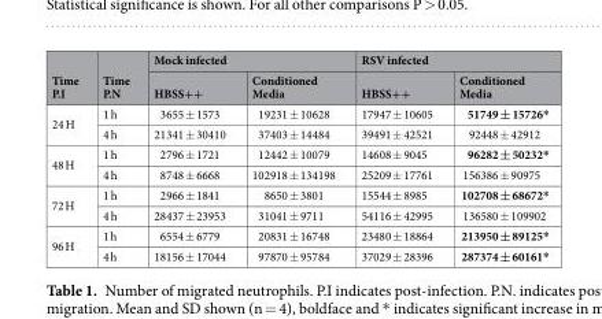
<table><thead><tr><td rowspan="2">Time P.I</td><td rowspan="2">Time P.N</td><td colspan="2">Mock infected</td><td colspan="2">RSV infected</td></tr><tr><td>HBSS++</td><td>Conditioned Media</td><td>HBSS++</td><td>Conditioned Media</td></tr></thead><tbody><tr><td rowspan="2">24 H</td><td>1 h</td><td>3655 ± 1573</td><td>19231 ± 10628</td><td>17947 ± 10605</td><td>51749 ± 15726*</td></tr><tr><td>4 h</td><td>21341 ± 30410</td><td>37403 ± 14484</td><td>39491 ± 42521</td><td>92448 ± 42912</td></tr><tr><td rowspan="2">48 H</td><td>1 h</td><td>2796 ± 1721</td><td>12442 ± 10079</td><td>14608 ± 9045</td><td>96282 ± 50232*</td></tr><tr><td>4 h</td><td>8748 ± 6668</td><td>102918 ± 134198</td><td>25209 ± 17761</td><td>156386 ± 90975</td></tr><tr><td rowspan="2">72 H</td><td>1 h</td><td>2966 ± 1841</td><td>8650 ± 3801</td><td>15544 ± 8985</td><td>102708 ± 68672*</td></tr><tr><td>4 h</td><td>28437 ± 23953</td><td>31041 ± 9711</td><td>54116 ± 42995</td><td>136580 ± 109902</td></tr><tr><td rowspan="2">96 H</td><td>1 h</td><td>6554 ± 6779</td><td>20831 ± 16748</td><td>23480 ± 18864</td><td>213950 ± 89125*</td></tr><tr><td>4 h</td><td>18156 ± 17044</td><td>97870 ± 95784</td><td>37029 ± 28396</td><td>287374 ± 60161*</td></tr></tbody></table>